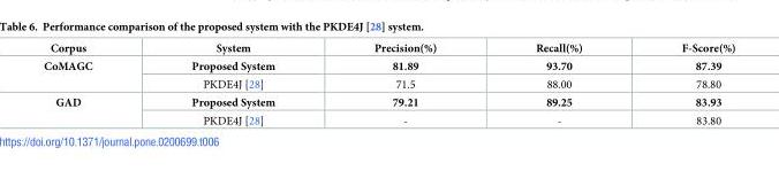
<table><thead><tr><td>Corpus</td><td>System</td><td>Precision(%)</td><td>Recall(%)</td><td>F-Score(%)</td></tr></thead><tbody><tr><td rowspan="2">CoMAGC</td><td>Proposed System</td><td>81.89</td><td>93.70</td><td>87.39</td></tr><tr><td>PKDE4J [28]</td><td>71.5</td><td>88.00</td><td>78.80</td></tr><tr><td rowspan="2">GAD</td><td>Proposed System</td><td>79.21</td><td>89.25</td><td>83.93</td></tr><tr><td>PKDE4J [28]</td><td>-</td><td>-</td><td>83.80</td></tr></tbody></table>